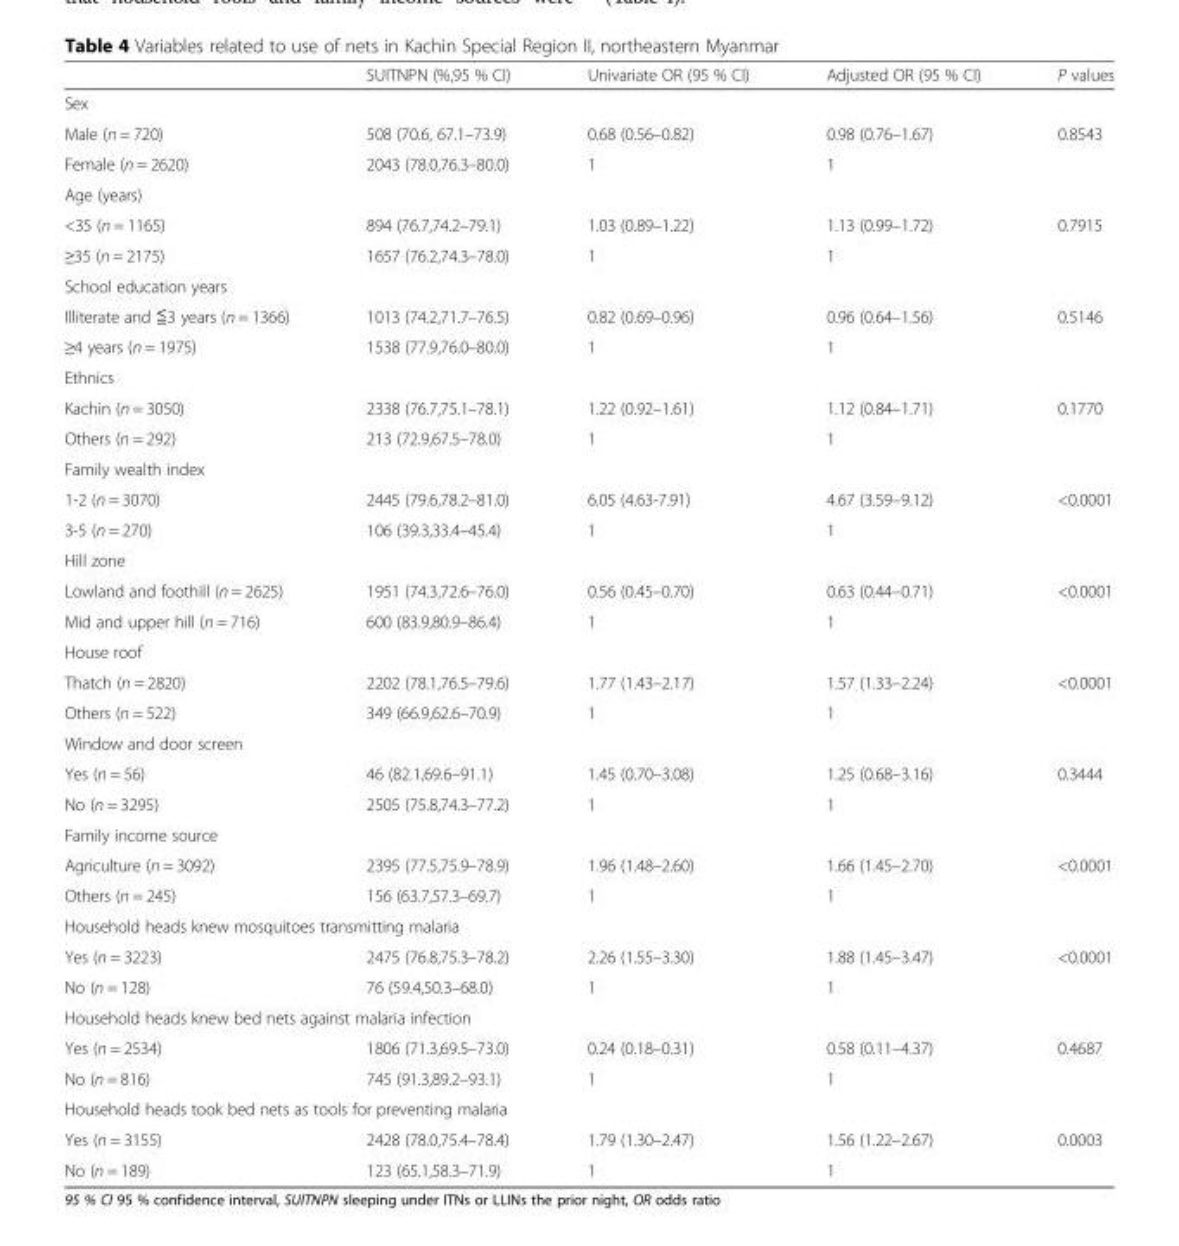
<table><thead><tr><td></td><td>SUITNPN (%,95 % CI)</td><td>Univariate OR (95 % CI)</td><td>Adjusted OR (95 % CI)</td><td>P values</td></tr></thead><tbody><tr><td colspan="5">Sex</td></tr><tr><td>Male (n = 720)</td><td>508 (70.6, 67.1–73.9)</td><td>0.68 (0.56–0.82)</td><td>0.98 (0.76–1.67)</td><td>0.8543</td></tr><tr><td>Female (n = 2620)</td><td>2043 (78.0,76.3–80.0)</td><td>1</td><td>1</td><td></td></tr><tr><td colspan="5">Age (years)</td></tr><tr><td>&lt;35 (n = 1165)</td><td>894 (76.7,74.2–79.1)</td><td>1.03 (0.89–1.22)</td><td>1.13 (0.99–1.72)</td><td>0.7915</td></tr><tr><td>≥35 (n = 2175)</td><td>1657 (76.2,74.3–78.0)</td><td>1</td><td>1</td><td></td></tr><tr><td colspan="5">School education years</td></tr><tr><td>Illiterate and ≦3 years (n = 1366)</td><td>1013 (74.2,71.7–76.5)</td><td>0.82 (0.69–0.96)</td><td>0.96 (0.64–1.56)</td><td>0.5146</td></tr><tr><td>≥4 years (n = 1975)</td><td>1538 (77.9,76.0–80.0)</td><td>1</td><td>1</td><td></td></tr><tr><td colspan="5">Ethnics</td></tr><tr><td>Kachin (n = 3050)</td><td>2338 (76.7,75.1–78.1)</td><td>1.22 (0.92–1.61)</td><td>1.12 (0.84–1.71)</td><td>0.1770</td></tr><tr><td>Others (n = 292)</td><td>213 (72.9,67.5–78.0)</td><td>1</td><td>1</td><td></td></tr><tr><td colspan="5">Family wealth index</td></tr><tr><td>1-2 (n = 3070)</td><td>2445 (79.6,78.2–81.0)</td><td>6.05 (4.63-7.91)</td><td>4.67 (3.59–9.12)</td><td>&lt;0.0001</td></tr><tr><td>3-5 (n = 270)</td><td>106 (39.3,33.4–45.4)</td><td>1</td><td>1</td><td></td></tr><tr><td colspan="5">Hill zone</td></tr><tr><td>Lowland and foothill (n = 2625)</td><td>1951 (74.3,72.6–76.0)</td><td>0.56 (0.45–0.70)</td><td>0.63 (0.44–0.71)</td><td>&lt;0.0001</td></tr><tr><td>Mid and upper hill (n = 716)</td><td>600 (83.9,80.9–86.4)</td><td>1</td><td>1</td><td></td></tr><tr><td colspan="5">House roof</td></tr><tr><td>Thatch (n = 2820)</td><td>2202 (78.1,76.5–79.6)</td><td>1.77 (1.43–2.17)</td><td>1.57 (1.33–2.24)</td><td>&lt;0.0001</td></tr><tr><td>Others (n = 522)</td><td>349 (66.9,62.6–70.9)</td><td>1</td><td>1</td><td></td></tr><tr><td colspan="5">Window and door screen</td></tr><tr><td>Yes (n = 56)</td><td>46 (82.1,69.6–91.1)</td><td>1.45 (0.70–3.08)</td><td>1.25 (0.68–3.16)</td><td>0.3444</td></tr><tr><td>No (n = 3295)</td><td>2505 (75.8,74.3–77.2)</td><td>1</td><td>1</td><td></td></tr><tr><td colspan="5">Family income source</td></tr><tr><td>Agriculture (n = 3092)</td><td>2395 (77.5,75.9–78.9)</td><td>1.96 (1.48–2.60)</td><td>1.66 (1.45–2.70)</td><td>&lt;0.0001</td></tr><tr><td>Others (n = 245)</td><td>156 (63.7,57.3–69.7)</td><td>1</td><td>1</td><td></td></tr><tr><td colspan="5">Household heads knew mosquitoes transmitting malaria</td></tr><tr><td>Yes (n = 3223)</td><td>2475 (76.8,75.3–78.2)</td><td>2.26 (1.55–3.30)</td><td>1.88 (1.45–3.47)</td><td>&lt;0.0001</td></tr><tr><td>No (n = 128)</td><td>76 (59.4,50.3–68.0)</td><td>1</td><td>1</td><td></td></tr><tr><td colspan="5">Household heads knew bed nets against malaria infection</td></tr><tr><td>Yes (n = 2534)</td><td>1806 (71.3,69.5–73.0)</td><td>0.24 (0.18–0.31)</td><td>0.58 (0.11–4.37)</td><td>0.4687</td></tr><tr><td>No (n = 816)</td><td>745 (91.3,89.2–93.1)</td><td>1</td><td>1</td><td></td></tr><tr><td colspan="5">Household heads took bed nets as tools for preventing malaria</td></tr><tr><td>Yes (n = 3155)</td><td>2428 (78.0,75.4–78.4)</td><td>1.79 (1.30–2.47)</td><td>1.56 (1.22–2.67)</td><td>0.0003</td></tr><tr><td>No (n = 189)</td><td>123 (65.1,58.3–71.9)</td><td>1</td><td>1</td><td></td></tr></tbody></table>